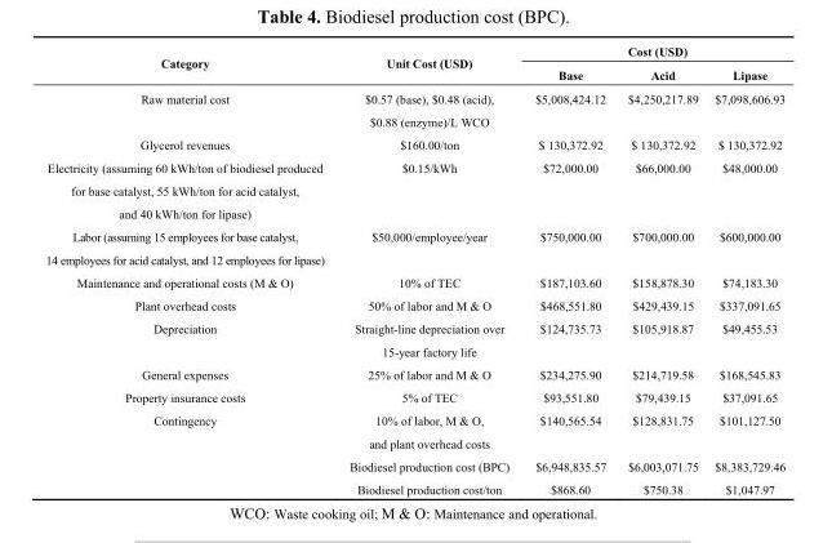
<table><thead><tr><td rowspan="2">Category</td><td rowspan="2">Unit Cost (USD)</td><td colspan="3">Cost (USD)</td></tr><tr><td>Base</td><td>Acid</td><td>Lipase</td></tr></thead><tbody><tr><td>Raw material cost</td><td>$0.57 (base), $0.48 (acid), $0.88 (enzyme)/L WCO</td><td>$5,008,424.12</td><td>$4,250,217.89</td><td>$7,098,606.93</td></tr><tr><td>Glycerol revenues</td><td>$160.00/ton</td><td>$ 130,372.92</td><td>$ 130,372.92</td><td>$ 130,372.92</td></tr><tr><td>Electricity (assuming 60 kWh/ton of biodiesel produced for base catalyst, 55 kWh/ton for acid catalyst, and 40 kWh/ton for lipase)</td><td>$0.15/kWh</td><td>$72,000.00</td><td>$66,000.00</td><td>$48,000.00</td></tr><tr><td>Labor (assuming 15 employees for base catalyst, 14 employees for acid catalyst, and 12 employees for lipase)</td><td>$50,000/employee/year</td><td>$750,000.00</td><td>$700,000.00</td><td>$600,000.00</td></tr><tr><td>Maintenance and operational costs (M &amp; O)</td><td>10% of TEC</td><td>$187,103.60</td><td>$158,878.30</td><td>$74,183.30</td></tr><tr><td>Plant overhead costs</td><td>50% of labor and M &amp; O</td><td>$468,551.80</td><td>$429,439.15</td><td>$337,091.65</td></tr><tr><td>Depreciation</td><td>Straight-line depreciation over 15-year factory life</td><td>$124,735.73</td><td>$105,918.87</td><td>$49,455.53</td></tr><tr><td>General expenses</td><td>25% of labor and M &amp; O</td><td>$234,275.90</td><td>$214,719.58</td><td>$168,545.83</td></tr><tr><td>Property insurance costs</td><td>5% of TEC</td><td>$93,551.80</td><td>$79,439.15</td><td>$37,091.65</td></tr><tr><td rowspan="3">Contingency</td><td>10% of labor, M &amp; O, and plant overhead costs</td><td>$140,565.54</td><td>$128,831.75</td><td>$101,127.50</td></tr><tr><td>Biodiesel production cost (BPC)</td><td>$6,948,835.57</td><td>$6,003,071.75</td><td>$8,383,729.46</td></tr><tr><td>Biodiesel production cost/ton</td><td>$868.60</td><td>$750.38</td><td>$1,047.97</td></tr></tbody></table>